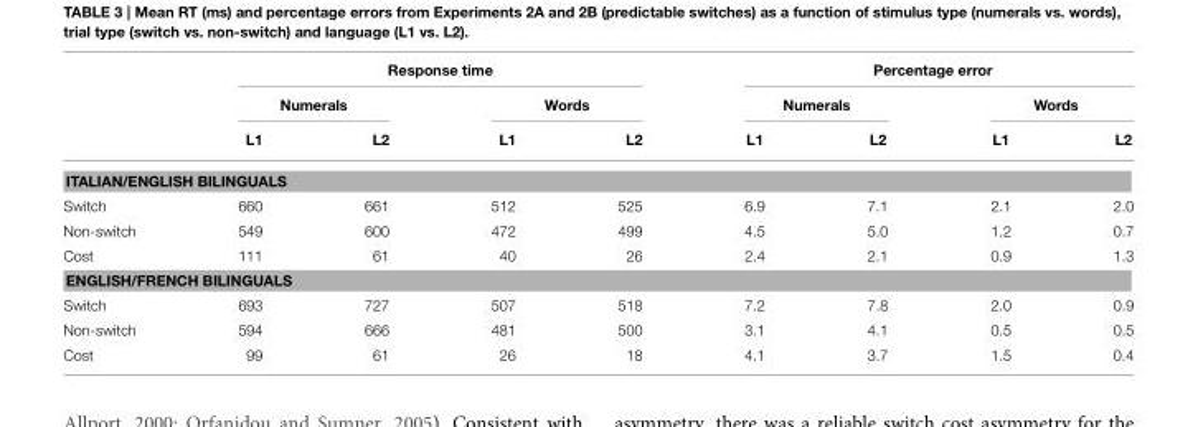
<table><thead><tr><td rowspan="3"></td><td colspan="4">Response time</td><td colspan="4">Percentage error</td></tr><tr><td colspan="2">Numerals</td><td colspan="2">Words</td><td colspan="2">Numerals</td><td colspan="2">Words</td></tr><tr><td>L1</td><td>L2</td><td>L1</td><td>L2</td><td>L1</td><td>L2</td><td>L1</td><td>L2</td></tr></thead><tbody><tr><td colspan="9">ITALIAN/ENGLISH BILINGUALS</td></tr><tr><td>Switch</td><td>660</td><td>661</td><td>512</td><td>525</td><td>6.9</td><td>7.1</td><td>2.1</td><td>2.0</td></tr><tr><td>Non-switch</td><td>549</td><td>600</td><td>472</td><td>499</td><td>4.5</td><td>5.0</td><td>1.2</td><td>0.7</td></tr><tr><td>Cost</td><td>111</td><td>61</td><td>40</td><td>26</td><td>2.4</td><td>2.1</td><td>0.9</td><td>1.3</td></tr><tr><td colspan="9">ENGLISH/FRENCH BILINGUALS</td></tr><tr><td>Switch</td><td>693</td><td>727</td><td>507</td><td>518</td><td>7.2</td><td>7.8</td><td>2.0</td><td>0.9</td></tr><tr><td>Non-switch</td><td>594</td><td>666</td><td>481</td><td>500</td><td>3.1</td><td>4.1</td><td>0.5</td><td>0.5</td></tr><tr><td>Cost</td><td>99</td><td>61</td><td>26</td><td>18</td><td>4.1</td><td>3.7</td><td>1.5</td><td>0.4</td></tr></tbody></table>